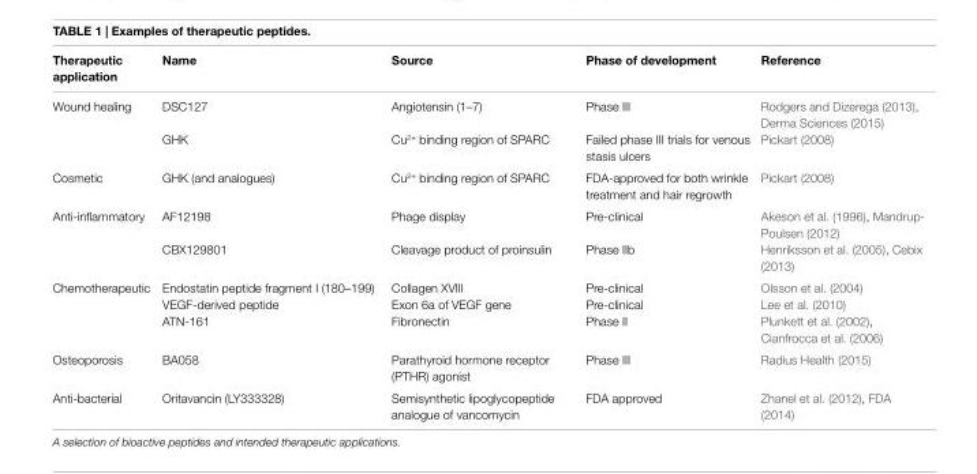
<table><thead><tr><td>Therapeutic application</td><td>Name</td><td>Source</td><td>Phase of development</td><td>Reference</td></tr></thead><tbody><tr><td rowspan="2">Wound healing</td><td>DSC127</td><td>Angiotensin (1–7)</td><td>Phase III</td><td>Rodgers and Dizerega (2013), Derma Sciences (2015)</td></tr><tr><td>GHK</td><td>Cu<sup>2+</sup> binding region of SPARC</td><td>Failed phase III trials for venous stasis ulcers</td><td>Pickart (2008)</td></tr><tr><td>Cosmetic</td><td>GHK (and analogues)</td><td>Cu<sup>2+</sup> binding region of SPARC</td><td>FDA-approved for both wrinkle treatment and hair regrowth</td><td>Pickart (2008)</td></tr><tr><td rowspan="2">Anti-inflammatory</td><td>AF12198</td><td>Phage display</td><td>Pre-clinical</td><td>Akeson et al. (1996), Mandrup- Poulsen (2012)</td></tr><tr><td>CBX129801</td><td>Cleavage product of proinsulin</td><td>Phase IIb</td><td>Henriksson et al. (2005), Cebix (2013)</td></tr><tr><td rowspan="3">Chemotherapeutic</td><td>Endostatin peptide fragment I (180–199)</td><td>Collagen XVIII</td><td>Pre-clinical</td><td>Olsson et al. (2004)</td></tr><tr><td>VEGF-derived peptide</td><td>Exon 6a of VEGF gene</td><td>Pre-clinical</td><td>Lee et al. (2010)</td></tr><tr><td>ATN-161</td><td>Fibronectin</td><td>Phase II</td><td>Plunkett et al. (2002), Cianfrocca et al. (2006)</td></tr><tr><td>Osteoporosis</td><td>BA058</td><td>Parathyroid hormone receptor (PTHR) agonist</td><td>Phase III</td><td>Radius Health (2015)</td></tr><tr><td>Anti-bacterial</td><td>Oritavancin (LY333328)</td><td>Semisynthetic lipoglycopeptide analogue of vancomycin</td><td>FDA approved</td><td>Zhanel et al. (2012), FDA (2014)</td></tr></tbody></table>